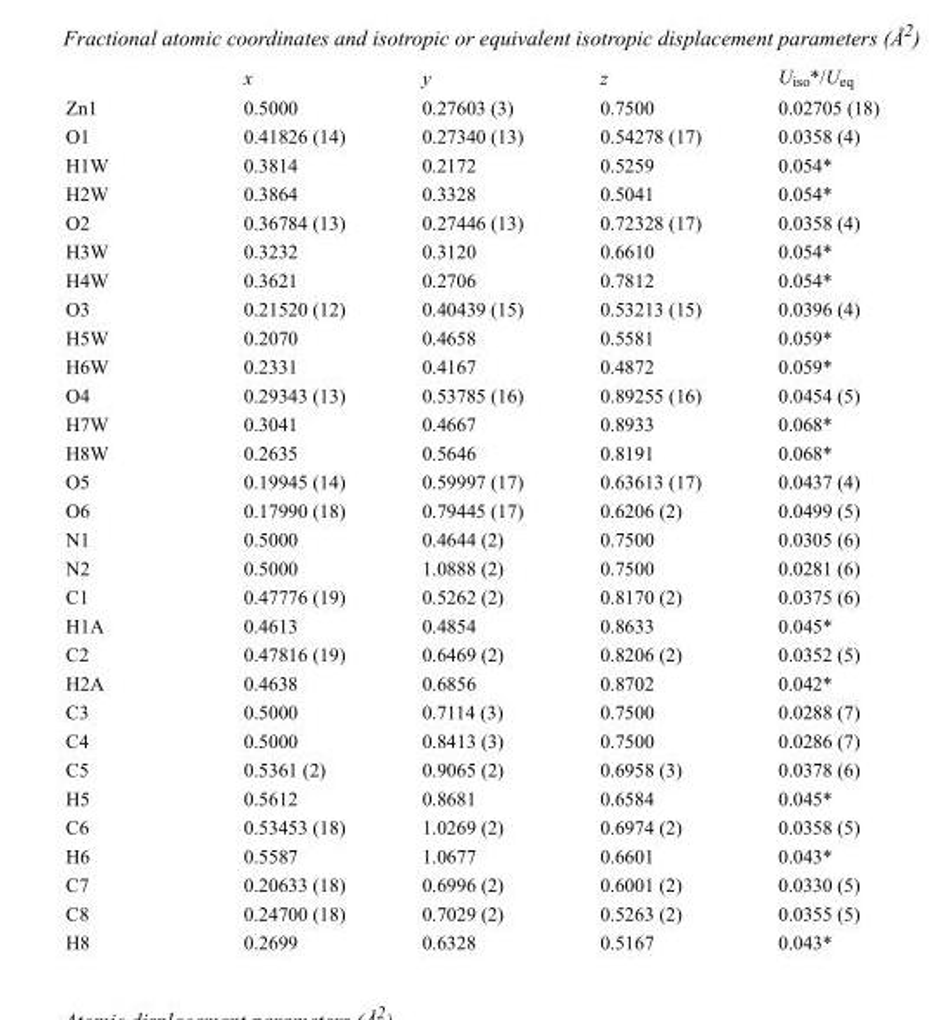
<table><thead><tr><td></td><td>x</td><td>y</td><td>z</td><td>U<sub>iso</sub>*/U<sub>eq</sub></td></tr></thead><tbody><tr><td>Zn1</td><td>0.5000</td><td>0.27603 (3)</td><td>0.7500</td><td>0.02705 (18)</td></tr><tr><td>O1</td><td>0.41826 (14)</td><td>0.27340 (13)</td><td>0.54278 (17)</td><td>0.0358 (4)</td></tr><tr><td>H1W</td><td>0.3814</td><td>0.2172</td><td>0.5259</td><td>0.054*</td></tr><tr><td>H2W</td><td>0.3864</td><td>0.3328</td><td>0.5041</td><td>0.054*</td></tr><tr><td>O2</td><td>0.36784 (13)</td><td>0.27446 (13)</td><td>0.72328 (17)</td><td>0.0358 (4)</td></tr><tr><td>H3W</td><td>0.3232</td><td>0.3120</td><td>0.6610</td><td>0.054*</td></tr><tr><td>H4W</td><td>0.3621</td><td>0.2706</td><td>0.7812</td><td>0.054*</td></tr><tr><td>O3</td><td>0.21520 (12)</td><td>0.40439 (15)</td><td>0.53213 (15)</td><td>0.0396 (4)</td></tr><tr><td>H5W</td><td>0.2070</td><td>0.4658</td><td>0.5581</td><td>0.059*</td></tr><tr><td>H6W</td><td>0.2331</td><td>0.4167</td><td>0.4872</td><td>0.059*</td></tr><tr><td>O4</td><td>0.29343 (13)</td><td>0.53785 (16)</td><td>0.89255 (16)</td><td>0.0454 (5)</td></tr><tr><td>H7W</td><td>0.3041</td><td>0.4667</td><td>0.8933</td><td>0.068*</td></tr><tr><td>H8W</td><td>0.2635</td><td>0.5646</td><td>0.8191</td><td>0.068*</td></tr><tr><td>O5</td><td>0.19945 (14)</td><td>0.59997 (17)</td><td>0.63613 (17)</td><td>0.0437 (4)</td></tr><tr><td>O6</td><td>0.17990 (18)</td><td>0.79445 (17)</td><td>0.6206 (2)</td><td>0.0499 (5)</td></tr><tr><td>N1</td><td>0.5000</td><td>0.4644 (2)</td><td>0.7500</td><td>0.0305 (6)</td></tr><tr><td>N2</td><td>0.5000</td><td>1.0888 (2)</td><td>0.7500</td><td>0.0281 (6)</td></tr><tr><td>C1</td><td>0.47776 (19)</td><td>0.5262 (2)</td><td>0.8170 (2)</td><td>0.0375 (6)</td></tr><tr><td>H1A</td><td>0.4613</td><td>0.4854</td><td>0.8633</td><td>0.045*</td></tr><tr><td>C2</td><td>0.47816 (19)</td><td>0.6469 (2)</td><td>0.8206 (2)</td><td>0.0352 (5)</td></tr><tr><td>H2A</td><td>0.4638</td><td>0.6856</td><td>0.8702</td><td>0.042*</td></tr><tr><td>C3</td><td>0.5000</td><td>0.7114 (3)</td><td>0.7500</td><td>0.0288 (7)</td></tr><tr><td>C4</td><td>0.5000</td><td>0.8413 (3)</td><td>0.7500</td><td>0.0286 (7)</td></tr><tr><td>C5</td><td>0.5361 (2)</td><td>0.9065 (2)</td><td>0.6958 (3)</td><td>0.0378 (6)</td></tr><tr><td>H5</td><td>0.5612</td><td>0.8681</td><td>0.6584</td><td>0.045*</td></tr><tr><td>C6</td><td>0.53453 (18)</td><td>1.0269 (2)</td><td>0.6974 (2)</td><td>0.0358 (5)</td></tr><tr><td>H6</td><td>0.5587</td><td>1.0677</td><td>0.6601</td><td>0.043*</td></tr><tr><td>C7</td><td>0.20633 (18)</td><td>0.6996 (2)</td><td>0.6001 (2)</td><td>0.0330 (5)</td></tr><tr><td>C8</td><td>0.24700 (18)</td><td>0.7029 (2)</td><td>0.5263 (2)</td><td>0.0355 (5)</td></tr><tr><td>H8</td><td>0.2699</td><td>0.6328</td><td>0.5167</td><td>0.043*</td></tr></tbody></table>